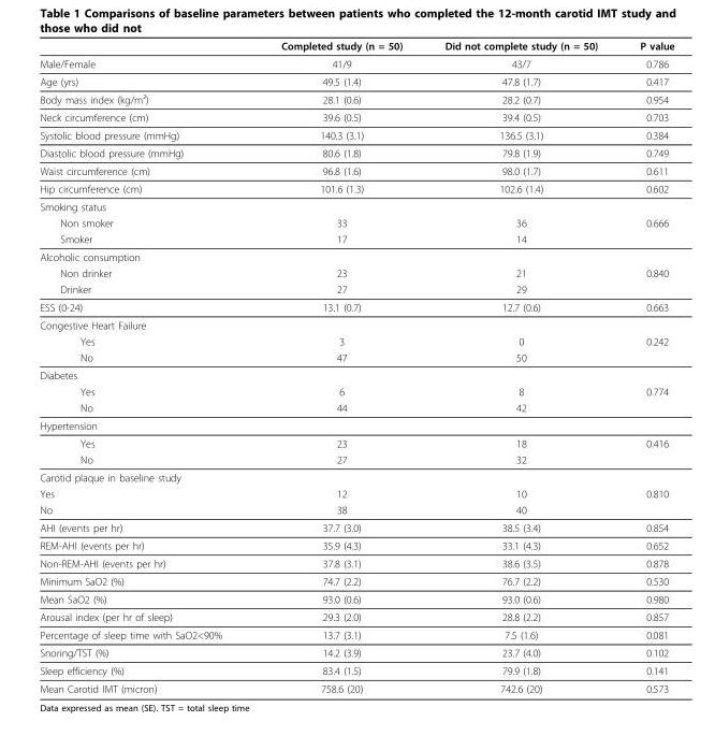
<table><thead><tr><td></td><td>Completed study (n = 50)</td><td>Did not complete study (n = 50)</td><td>P value</td></tr></thead><tbody><tr><td>Male/Female</td><td>41/9</td><td>43/7</td><td>0.786</td></tr><tr><td>Age (yrs)</td><td>49.5 (1.4)</td><td>47.8 (1.7)</td><td>0.417</td></tr><tr><td>Body mass index (kg/m²)</td><td>28.1 (0.6)</td><td>28.2 (0.7)</td><td>0.954</td></tr><tr><td>Neck circumference (cm)</td><td>39.6 (0.5)</td><td>39.4 (0.5)</td><td>0.703</td></tr><tr><td>Systolic blood pressure (mmHg)</td><td>140.3 (3.1)</td><td>136.5 (3.1)</td><td>0.384</td></tr><tr><td>Diastolic blood pressure (mmHg)</td><td>80.6 (1.8)</td><td>79.8 (1.9)</td><td>0.749</td></tr><tr><td>Waist circumference (cm)</td><td>96.8 (1.6)</td><td>98.0 (1.7)</td><td>0.611</td></tr><tr><td>Hip circumference (cm)</td><td>101.6 (1.3)</td><td>102.6 (1.4)</td><td>0.602</td></tr><tr><td colspan="4">Smoking status</td></tr><tr><td>Non smoker</td><td>33</td><td>36</td><td>0.666</td></tr><tr><td>Smoker</td><td>17</td><td>14</td><td></td></tr><tr><td colspan="4">Alcoholic consumption</td></tr><tr><td>Non drinker</td><td>23</td><td>21</td><td>0.840</td></tr><tr><td>Drinker</td><td>27</td><td>29</td><td></td></tr><tr><td>ESS (0-24)</td><td>13.1 (0.7)</td><td>12.7 (0.6)</td><td>0.663</td></tr><tr><td colspan="4">Congestive Heart Failure</td></tr><tr><td>Yes</td><td>3</td><td>0</td><td>0.242</td></tr><tr><td>No</td><td>47</td><td>50</td><td></td></tr><tr><td colspan="4">Diabetes</td></tr><tr><td>Yes</td><td>6</td><td>8</td><td>0.774</td></tr><tr><td>No</td><td>44</td><td>42</td><td></td></tr><tr><td colspan="4">Hypertension</td></tr><tr><td>Yes</td><td>23</td><td>18</td><td>0.416</td></tr><tr><td>No</td><td>27</td><td>32</td><td></td></tr><tr><td colspan="4">Carotid plaque in baseline study</td></tr><tr><td>Yes</td><td>12</td><td>10</td><td>0.810</td></tr><tr><td>No</td><td>38</td><td>40</td><td></td></tr><tr><td>AHI (events per hr)</td><td>37.7 (3.0)</td><td>38.5 (3.4)</td><td>0.854</td></tr><tr><td>REM-AHI (events per hr)</td><td>35.9 (4.3)</td><td>33.1 (4.3)</td><td>0.652</td></tr><tr><td>Non-REM-AHI (events per hr)</td><td>37.8 (3.1)</td><td>38.6 (3.5)</td><td>0.878</td></tr><tr><td>Minimum SaO2 (%)</td><td>74.7 (2.2)</td><td>76.7 (2.2)</td><td>0.530</td></tr><tr><td>Mean SaO2 (%)</td><td>93.0 (0.6)</td><td>93.0 (0.6)</td><td>0.980</td></tr><tr><td>Arousal index (per hr of sleep)</td><td>29.3 (2.0)</td><td>28.8 (2.2)</td><td>0.857</td></tr><tr><td>Percentage of sleep time with SaO2&lt;90%</td><td>13.7 (3.1)</td><td>7.5 (1.6)</td><td>0.081</td></tr><tr><td>Snoring/TST (%)</td><td>14.2 (3.9)</td><td>23.7 (4.0)</td><td>0.102</td></tr><tr><td>Sleep efficiency (%)</td><td>83.4 (1.5)</td><td>79.9 (1.8)</td><td>0.141</td></tr><tr><td>Mean Carotid IMT (micron)</td><td>758.6 (20)</td><td>742.6 (20)</td><td>0.573</td></tr></tbody></table>